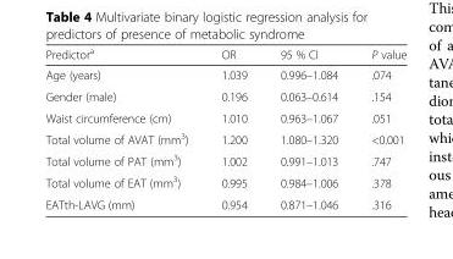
<table><thead><tr><td>Predictor<sup>a</sup></td><td>OR</td><td>95 % CI</td><td>P value</td></tr></thead><tbody><tr><td>Age (years)</td><td>1.039</td><td>0.996–1.084</td><td>.074</td></tr><tr><td>Gender (male)</td><td>0.196</td><td>0.063–0.614</td><td>.154</td></tr><tr><td>Waist circumference (cm)</td><td>1.010</td><td>0.963–1.067</td><td>.051</td></tr><tr><td>Total volume of AVAT (mm<sup>3</sup>)</td><td>1.200</td><td>1.080–1.320</td><td>&lt;0.001</td></tr><tr><td>Total volume of PAT (mm<sup>3</sup>)</td><td>1.002</td><td>0.991–1.013</td><td>.747</td></tr><tr><td>Total volume of EAT (mm<sup>3</sup>)</td><td>0.995</td><td>0.984–1.006</td><td>.378</td></tr><tr><td>EATth-LAVG (mm)</td><td>0.954</td><td>0.871–1.046</td><td>.316</td></tr></tbody></table>